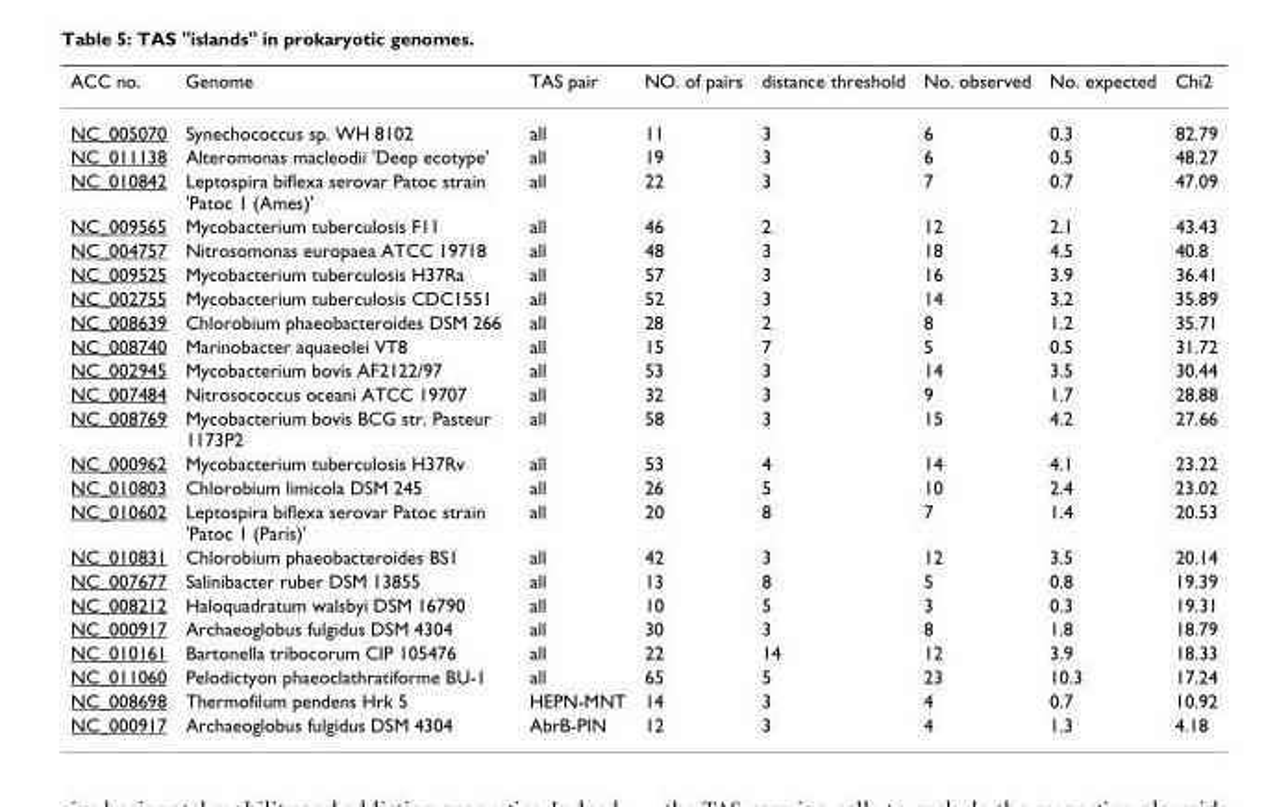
<table><thead><tr><td>ACC no.</td><td>Genome</td><td>TAS pair</td><td>NO. of pairs</td><td>distance threshold</td><td>No. observed</td><td>No. expected</td><td>Chi2</td></tr></thead><tbody><tr><td>NC_005070</td><td>Synechococcus sp. WH 8102</td><td>all</td><td>11</td><td>3</td><td>6</td><td>0.3</td><td>82.79</td></tr><tr><td>NC_011138</td><td>Alteromonas macleodii &#x27;Deep ecotype&#x27;</td><td>all</td><td>19</td><td>3</td><td>6</td><td>0.5</td><td>48.27</td></tr><tr><td>NC_010842</td><td>Leptospira biflexa serovar Patoc strain &#x27;Patoc 1 (Ames)&#x27;</td><td>all</td><td>22</td><td>3</td><td>7</td><td>0.7</td><td>47.09</td></tr><tr><td>NC_009565</td><td>Mycobacterium tuberculosis F11</td><td>all</td><td>46</td><td>2</td><td>12</td><td>2.1</td><td>43.43</td></tr><tr><td>NC_004757</td><td>Nitrosomonas europaea ATCC 19718</td><td>all</td><td>48</td><td>3</td><td>18</td><td>4.5</td><td>40.8</td></tr><tr><td>NC_009525</td><td>Mycobacterium tuberculosis H37Ra</td><td>all</td><td>57</td><td>3</td><td>16</td><td>3.9</td><td>36.41</td></tr><tr><td>NC_002755</td><td>Mycobacterium tuberculosis CDC1551</td><td>all</td><td>52</td><td>3</td><td>14</td><td>3.2</td><td>35.89</td></tr><tr><td>NC_008639</td><td>Chlorobium phaeobacteroides DSM 266</td><td>all</td><td>28</td><td>2</td><td>8</td><td>1.2</td><td>35.71</td></tr><tr><td>NC_008740</td><td>Marinobacter aquaeolei VT8</td><td>all</td><td>15</td><td>7</td><td>5</td><td>0.5</td><td>31.72</td></tr><tr><td>NC_002945</td><td>Mycobacterium bovis AF2122/97</td><td>all</td><td>53</td><td>3</td><td>14</td><td>3.5</td><td>30.44</td></tr><tr><td>NC_007484</td><td>Nitrosococcus oceani ATCC 19707</td><td>all</td><td>32</td><td>3</td><td>9</td><td>1.7</td><td>28.88</td></tr><tr><td>NC_008769</td><td>Mycobacterium bovis BCG str. Pasteur 1173P2</td><td>all</td><td>58</td><td>3</td><td>15</td><td>4.2</td><td>27.66</td></tr><tr><td>NC_000962</td><td>Mycobacterium tuberculosis H37Rv</td><td>all</td><td>53</td><td>4</td><td>14</td><td>4.1</td><td>23.22</td></tr><tr><td>NC_010803</td><td>Chlorobium limicola DSM 245</td><td>all</td><td>26</td><td>5</td><td>10</td><td>2.4</td><td>23.02</td></tr><tr><td>NC_010602</td><td>Leptospira biflexa serovar Patoc strain &#x27;Patoc 1 (Paris)&#x27;</td><td>all</td><td>20</td><td>8</td><td>7</td><td>1.4</td><td>20.53</td></tr><tr><td>NC_010831</td><td>Chlorobium phaeobacteroides BS1</td><td>all</td><td>42</td><td>3</td><td>12</td><td>3.5</td><td>20.14</td></tr><tr><td>NC_007677</td><td>Salinibacter ruber DSM 13855</td><td>all</td><td>13</td><td>8</td><td>5</td><td>0.8</td><td>19.39</td></tr><tr><td>NC_008212</td><td>Haloquadratum walsbyi DSM 16790</td><td>all</td><td>10</td><td>5</td><td>3</td><td>0.3</td><td>19.31</td></tr><tr><td>NC_000917</td><td>Archaeoglobus fulgidus DSM 4304</td><td>all</td><td>30</td><td>3</td><td>8</td><td>1.8</td><td>18.79</td></tr><tr><td>NC_010161</td><td>Bartonella tribocorum CIP 105476</td><td>all</td><td>22</td><td>14</td><td>12</td><td>3.9</td><td>18.33</td></tr><tr><td>NC_011060</td><td>Pelodictyon phaeoclathratiforme BU-1</td><td>all</td><td>65</td><td>5</td><td>23</td><td>10.3</td><td>17.24</td></tr><tr><td>NC_008698</td><td>Thermofilum pendens Hrk 5</td><td>HEPN-MNT</td><td>14</td><td>3</td><td>4</td><td>0.7</td><td>10.92</td></tr><tr><td>NC_000917</td><td>Archaeoglobus fulgidus DSM 4304</td><td>AbrB-PIN</td><td>12</td><td>3</td><td>4</td><td>1.3</td><td>4.18</td></tr></tbody></table>